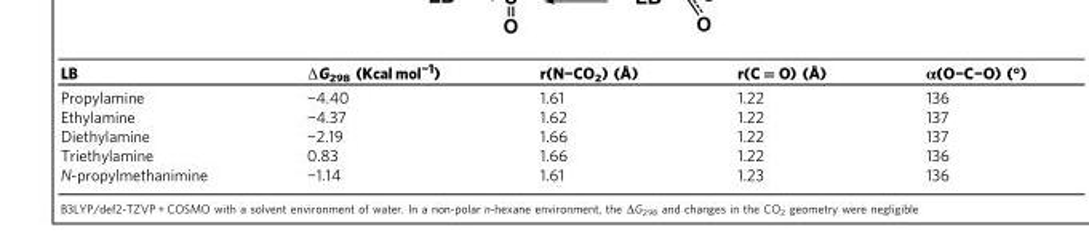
<table><thead><tr><td>LB</td><td>ΔG298 (Kcal mol−1)</td><td>r(N−CO<sub>2</sub>) (Å)</td><td>r(C = O) (Å)</td><td>α(O−C−O) (°)</td></tr></thead><tbody><tr><td>Propylamine</td><td>−4.40</td><td>1.61</td><td>1.22</td><td>136</td></tr><tr><td>Ethylamine</td><td>−4.37</td><td>1.62</td><td>1.22</td><td>137</td></tr><tr><td>Diethylamine</td><td>−2.19</td><td>1.66</td><td>1.22</td><td>137</td></tr><tr><td>Triethylamine</td><td>0.83</td><td>1.66</td><td>1.22</td><td>136</td></tr><tr><td>N-propylmethanimine</td><td>−1.14</td><td>1.61</td><td>1.23</td><td>136</td></tr></tbody></table>